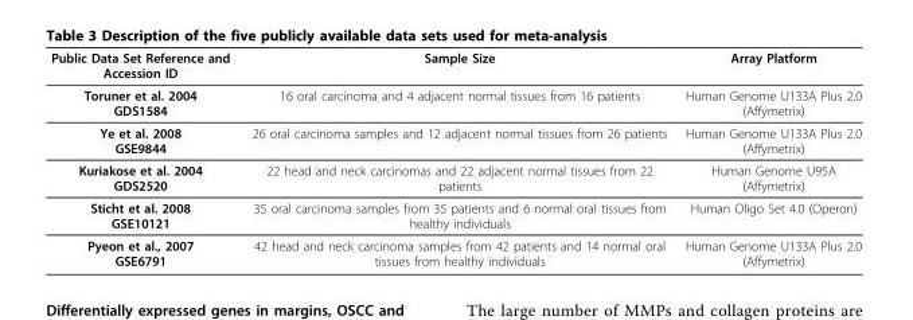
<table><thead><tr><td>Public Data Set Reference and Accession ID</td><td>Sample Size</td><td>Array Platform</td></tr></thead><tbody><tr><td>Toruner et al. 2004 GDS1584</td><td>16 oral carcinoma and 4 adjacent normal tissues from 16 patients</td><td>Human Genome U133A Plus 2.0 (Affymetrix)</td></tr><tr><td>Ye et al. 2008 GSE9844</td><td>26 oral carcinoma samples and 12 adjacent normal tissues from 26 patients</td><td>Human Genome U133A Plus 2.0 (Affymetrix)</td></tr><tr><td>Kuriakose et al. 2004 GDS2520</td><td>22 head and neck carcinomas and 22 adjacent normal tissues from 22 patients</td><td>Human Genome U95A (Affymetrix)</td></tr><tr><td>Sticht et al. 2008 GSE10121</td><td>35 oral carcinoma samples from 35 patients and 6 normal oral tissues from healthy individuals</td><td>Human Oligo Set 4.0 (Operon)</td></tr><tr><td>Pyeon et al., 2007 GSE6791</td><td>42 head and neck carcinoma samples from 42 patients and 14 normal oral tissues from healthy individuals</td><td>Human Genome U133A Plus 2.0 (Affymetrix)</td></tr></tbody></table>